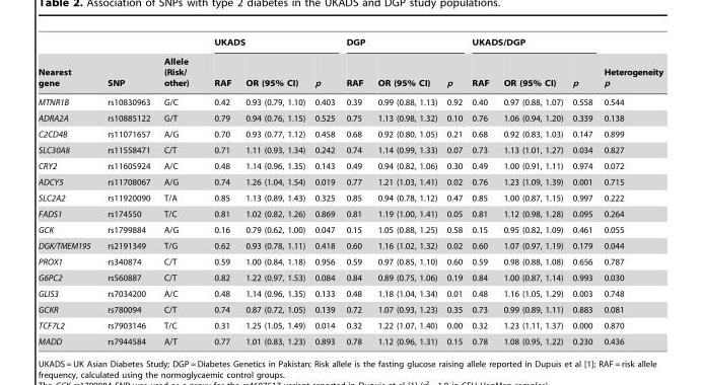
<table><thead><tr><td rowspan="2">Nearest gene</td><td rowspan="2">SNP</td><td rowspan="2">Allele (Risk/ other)</td><td colspan="3">UKADS</td><td colspan="3">DGP</td><td colspan="3">UKADS/DGP</td><td rowspan="2">Heterogeneity p</td></tr><tr><td>RAF</td><td>OR (95% CI)</td><td>p</td><td>RAF</td><td>OR (95% CI)</td><td>p</td><td>RAF</td><td>OR (95% CI)</td><td>p</td></tr></thead><tbody><tr><td>MTNR1B</td><td>rs10830963</td><td>G/C</td><td>0.42</td><td>0.93 (0.79, 1.10)</td><td>0.403</td><td>0.39</td><td>0.99 (0.88, 1.13)</td><td>0.92</td><td>0.40</td><td>0.97 (0.88, 1.07)</td><td>0.558</td><td>0.544</td></tr><tr><td>ADRA2A</td><td>rs10885122</td><td>G/T</td><td>0.79</td><td>0.94 (0.76, 1.15)</td><td>0.525</td><td>0.75</td><td>1.13 (0.98, 1.32)</td><td>0.10</td><td>0.76</td><td>1.06 (0.94, 1.20)</td><td>0.339</td><td>0.138</td></tr><tr><td>C2CD4B</td><td>rs11071657</td><td>A/G</td><td>0.70</td><td>0.93 (0.77, 1.12)</td><td>0.458</td><td>0.68</td><td>0.92 (0.80, 1.05)</td><td>0.21</td><td>0.68</td><td>0.92 (0.83, 1.03)</td><td>0.147</td><td>0.899</td></tr><tr><td>SLC30A8</td><td>rs11558471</td><td>C/T</td><td>0.71</td><td>1.11 (0.93, 1.34)</td><td>0.242</td><td>0.74</td><td>1.14 (0.99, 1.33)</td><td>0.07</td><td>0.73</td><td>1.13 (1.01, 1.27)</td><td>0.034</td><td>0.827</td></tr><tr><td>CRY2</td><td>rs11605924</td><td>A/C</td><td>0.48</td><td>1.14 (0.96, 1.35)</td><td>0.143</td><td>0.49</td><td>0.94 (0.82, 1.06)</td><td>0.30</td><td>0.49</td><td>1.00 (0.91, 1.11)</td><td>0.974</td><td>0.072</td></tr><tr><td>ADCY5</td><td>rs11708067</td><td>A/G</td><td>0.74</td><td>1.26 (1.04, 1.54)</td><td>0.019</td><td>0.77</td><td>1.21 (1.03, 1.41)</td><td>0.02</td><td>0.76</td><td>1.23 (1.09, 1.39)</td><td>0.001</td><td>0.715</td></tr><tr><td>SLC2A2</td><td>rs11920090</td><td>T/A</td><td>0.85</td><td>1.13 (0.89, 1.43)</td><td>0.325</td><td>0.85</td><td>0.94 (0.78, 1.12)</td><td>0.47</td><td>0.85</td><td>1.00 (0.87, 1.15)</td><td>0.997</td><td>0.222</td></tr><tr><td>FADS1</td><td>rs174550</td><td>T/C</td><td>0.81</td><td>1.02 (0.82, 1.26)</td><td>0.869</td><td>0.81</td><td>1.19 (1.00, 1.41)</td><td>0.05</td><td>0.81</td><td>1.12 (0.98, 1.28)</td><td>0.095</td><td>0.264</td></tr><tr><td>GCK</td><td>rs1799884</td><td>A/G</td><td>0.16</td><td>0.79 (0.62, 1.00)</td><td>0.047</td><td>0.15</td><td>1.05 (0.88, 1.25)</td><td>0.58</td><td>0.15</td><td>0.95 (0.82, 1.09)</td><td>0.461</td><td>0.055</td></tr><tr><td>DGK/TMEM195</td><td>rs2191349</td><td>T/G</td><td>0.62</td><td>0.93 (0.78, 1.11)</td><td>0.418</td><td>0.60</td><td>1.16 (1.02, 1.32)</td><td>0.02</td><td>0.60</td><td>1.07 (0.97, 1.19)</td><td>0.179</td><td>0.044</td></tr><tr><td>PROX1</td><td>rs340874</td><td>C/T</td><td>0.59</td><td>1.00 (0.84, 1.18)</td><td>0.956</td><td>0.59</td><td>0.97 (0.85, 1.10)</td><td>0.60</td><td>0.59</td><td>0.98 (0.88, 1.08)</td><td>0.656</td><td>0.787</td></tr><tr><td>G6PC2</td><td>rs560887</td><td>C/T</td><td>0.82</td><td>1.22 (0.97, 1.53)</td><td>0.084</td><td>0.84</td><td>0.89 (0.75, 1.06)</td><td>0.19</td><td>0.84</td><td>1.00 (0.87, 1.14)</td><td>0.993</td><td>0.030</td></tr><tr><td>GLIS3</td><td>rs7034200</td><td>A/C</td><td>0.48</td><td>1.14 (0.96, 1.35)</td><td>0.133</td><td>0.48</td><td>1.18 (1.04, 1.34)</td><td>0.01</td><td>0.48</td><td>1.16 (1.05, 1.29)</td><td>0.003</td><td>0.748</td></tr><tr><td>GCKR</td><td>rs780094</td><td>C/T</td><td>0.74</td><td>0.87 (0.72, 1.05)</td><td>0.139</td><td>0.72</td><td>1.07 (0.93, 1.23)</td><td>0.35</td><td>0.73</td><td>0.99 (0.89, 1.11)</td><td>0.883</td><td>0.081</td></tr><tr><td>TCF7L2</td><td>rs7903146</td><td>T/C</td><td>0.31</td><td>1.25 (1.05, 1.49)</td><td>0.014</td><td>0.32</td><td>1.22 (1.07, 1.40)</td><td>0.00</td><td>0.32</td><td>1.23 (1.11, 1.37)</td><td>0.000</td><td>0.870</td></tr><tr><td>MADD</td><td>rs7944584</td><td>A/T</td><td>0.77</td><td>1.01 (0.83, 1.23)</td><td>0.893</td><td>0.78</td><td>1.12 (0.96, 1.31)</td><td>0.15</td><td>0.78</td><td>1.08 (0.95, 1.22)</td><td>0.230</td><td>0.436</td></tr></tbody></table>